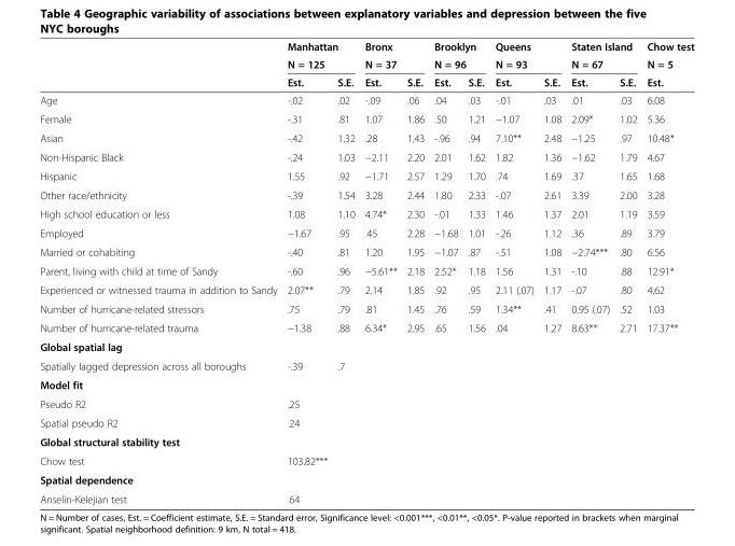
<table><thead><tr><td rowspan="3"></td><td rowspan="2" colspan="2">Manhattan N = 125</td><td rowspan="2" colspan="2">Bronx N = 37</td><td rowspan="2" colspan="2">Brooklyn N = 96</td><td rowspan="2" colspan="2">Queens N = 93</td><td rowspan="2" colspan="2">Staten Island N = 67</td><td rowspan="3">Chow test N = 5 Est.</td></tr><tr></tr><tr><td>Est.</td><td>S.E.</td><td>Est.</td><td>S.E.</td><td>Est.</td><td>S.E.</td><td>Est.</td><td>S.E.</td><td>Est.</td><td>S.E.</td></tr></thead><tbody><tr><td>Age</td><td>-.02</td><td>.02</td><td>-.09</td><td>.06</td><td>.04</td><td>.03</td><td>-.01</td><td>.03</td><td>.01</td><td>.03</td><td>6.08</td></tr><tr><td>Female</td><td>-.31</td><td>.81</td><td>1.07</td><td>1.86</td><td>.50</td><td>1.21</td><td>−1.07</td><td>1.08</td><td>2.09*</td><td>1.02</td><td>5.36</td></tr><tr><td>Asian</td><td>-.42</td><td>1.32</td><td>.28</td><td>1.43</td><td>-.96</td><td>.94</td><td>7.10**</td><td>2.48</td><td>−1.25</td><td>.97</td><td>10.48*</td></tr><tr><td>Non-Hispanic Black</td><td>-.24</td><td>1.03</td><td>−2.11</td><td>2.20</td><td>2.01</td><td>1.62</td><td>1.82</td><td>1.36</td><td>−1.62</td><td>1.79</td><td>4.67</td></tr><tr><td>Hispanic</td><td>1.55</td><td>.92</td><td>−1.71</td><td>2.57</td><td>1.29</td><td>1.70</td><td>.74</td><td>1.69</td><td>.37</td><td>1.65</td><td>1.68</td></tr><tr><td>Other race/ethnicity</td><td>-.39</td><td>1.54</td><td>3.28</td><td>2.44</td><td>1.80</td><td>2.33</td><td>-.07</td><td>2.61</td><td>3.39</td><td>2.00</td><td>3.28</td></tr><tr><td>High school education or less</td><td>1.08</td><td>1.10</td><td>4.74*</td><td>2.30</td><td>-.01</td><td>1.33</td><td>1.46</td><td>1.37</td><td>2.01</td><td>1.19</td><td>3.59</td></tr><tr><td>Employed</td><td>−1.67</td><td>.95</td><td>.45</td><td>2.28</td><td>−1.68</td><td>1.01</td><td>-.26</td><td>1.12</td><td>.36</td><td>.89</td><td>3.79</td></tr><tr><td>Married or cohabiting</td><td>-.40</td><td>.81</td><td>1.20</td><td>1.95</td><td>−1.07</td><td>.87</td><td>-.51</td><td>1.08</td><td>−2.74***</td><td>.80</td><td>6.56</td></tr><tr><td>Parent, living with child at time of Sandy</td><td>-.60</td><td>.96</td><td>−5.61**</td><td>2.18</td><td>2.52*</td><td>1.18</td><td>1.56</td><td>1.31</td><td>-.10</td><td>.88</td><td>12.91*</td></tr><tr><td>Experienced or witnessed trauma in addition to Sandy</td><td>2.07**</td><td>.79</td><td>2.14</td><td>1.85</td><td>.92</td><td>.95</td><td>2.11 (.07)</td><td>1.17</td><td>-.07</td><td>.80</td><td>4.62</td></tr><tr><td>Number of hurricane-related stressors</td><td>.75</td><td>.79</td><td>.81</td><td>1.45</td><td>.76</td><td>.59</td><td>1.34**</td><td>.41</td><td>0.95 (.07)</td><td>.52</td><td>1.03</td></tr><tr><td>Number of hurricane-related trauma</td><td>−1.38</td><td>.88</td><td>6.34*</td><td>2.95</td><td>.65</td><td>1.56</td><td>.04</td><td>1.27</td><td>8.63**</td><td>2.71</td><td>17.37**</td></tr><tr><td colspan="12">Global spatial lag</td></tr><tr><td>Spatially lagged depression across all boroughs</td><td>-.39</td><td>.7</td><td></td><td></td><td></td><td></td><td></td><td></td><td></td><td></td><td></td></tr><tr><td colspan="12">Model fit</td></tr><tr><td>Pseudo R2</td><td>.25</td><td></td><td></td><td></td><td></td><td></td><td></td><td></td><td></td><td></td><td></td></tr><tr><td>Spatial pseudo R2</td><td>.24</td><td></td><td></td><td></td><td></td><td></td><td></td><td></td><td></td><td></td><td></td></tr><tr><td colspan="12">Global structural stability test</td></tr><tr><td>Chow test</td><td>103.82***</td><td></td><td></td><td></td><td></td><td></td><td></td><td></td><td></td><td></td><td></td></tr><tr><td colspan="12">Spatial dependence</td></tr><tr><td>Anselin-Kelejian test</td><td>.64</td><td></td><td></td><td></td><td></td><td></td><td></td><td></td><td></td><td></td><td></td></tr></tbody></table>